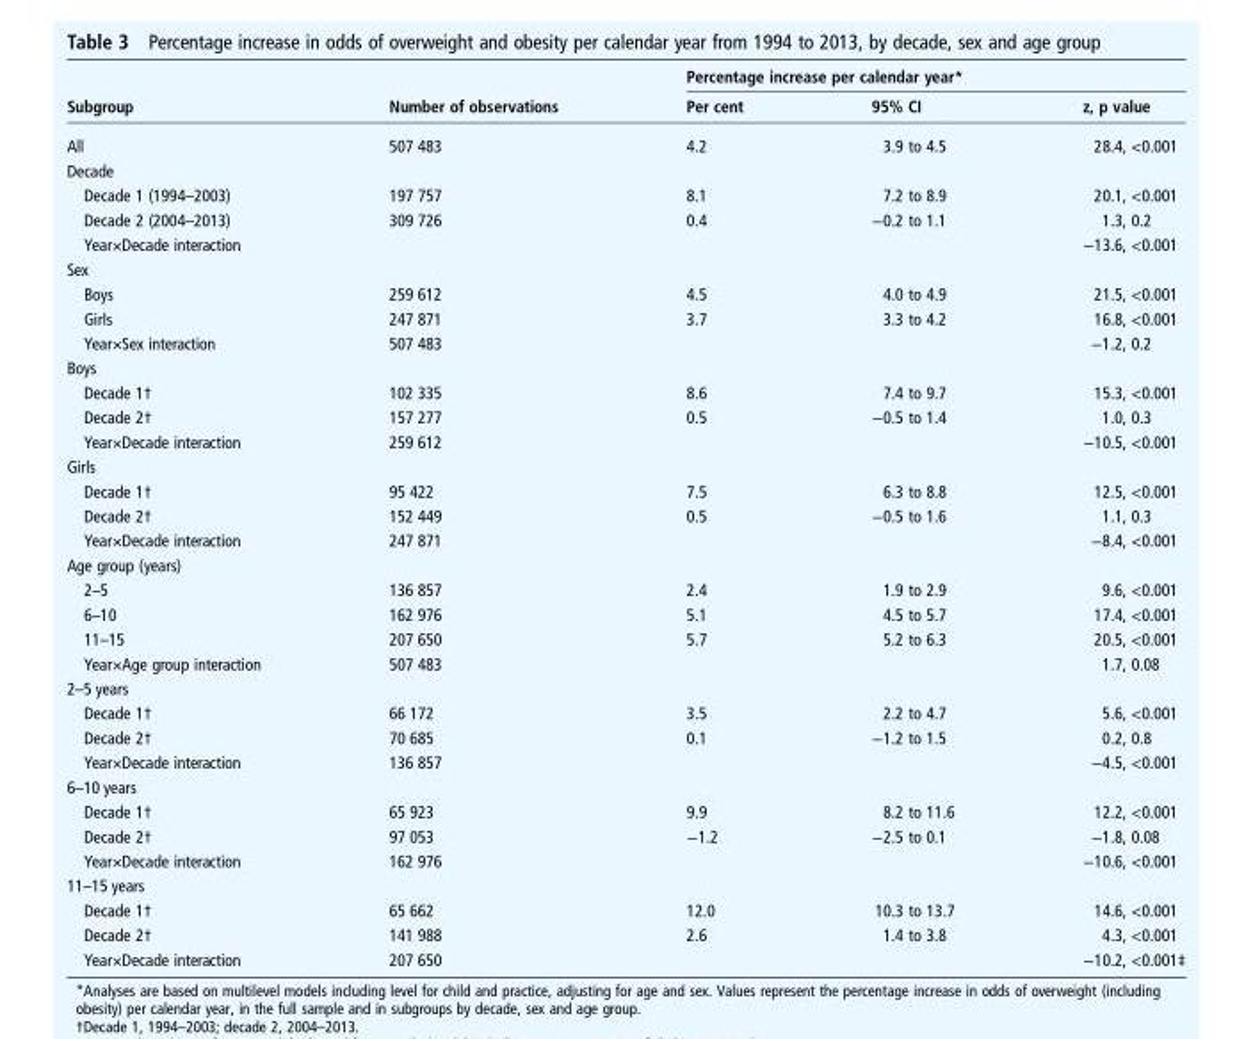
<table><thead><tr><td rowspan="2">Subgroup</td><td rowspan="2">Number of observations</td><td colspan="3">Percentage increase per calendar year*</td></tr><tr><td>Per cent</td><td>95% CI</td><td>z, p value</td></tr></thead><tbody><tr><td>All</td><td>507 483</td><td>4.2</td><td>3.9 to 4.5</td><td>28.4, &lt;0.001</td></tr><tr><td colspan="5">Decade</td></tr><tr><td>Decade 1 (1994–2003)</td><td>197 757</td><td>8.1</td><td>7.2 to 8.9</td><td>20.1, &lt;0.001</td></tr><tr><td>Decade 2 (2004–2013)</td><td>309 726</td><td>0.4</td><td>−0.2 to 1.1</td><td>1.3, 0.2</td></tr><tr><td>Year×Decade interaction</td><td></td><td></td><td></td><td>−13.6, &lt;0.001</td></tr><tr><td colspan="5">Sex</td></tr><tr><td>Boys</td><td>259 612</td><td>4.5</td><td>4.0 to 4.9</td><td>21.5, &lt;0.001</td></tr><tr><td>Girls</td><td>247 871</td><td>3.7</td><td>3.3 to 4.2</td><td>16.8, &lt;0.001</td></tr><tr><td>Year×Sex interaction</td><td>507 483</td><td></td><td></td><td>−1.2, 0.2</td></tr><tr><td colspan="5">Boys</td></tr><tr><td>Decade 1†</td><td>102 335</td><td>8.6</td><td>7.4 to 9.7</td><td>15.3, &lt;0.001</td></tr><tr><td>Decade 2†</td><td>157 277</td><td>0.5</td><td>−0.5 to 1.4</td><td>1.0, 0.3</td></tr><tr><td>Year×Decade interaction</td><td>259 612</td><td></td><td></td><td>−10.5, &lt;0.001</td></tr><tr><td colspan="5">Girls</td></tr><tr><td>Decade 1†</td><td>95 422</td><td>7.5</td><td>6.3 to 8.8</td><td>12.5, &lt;0.001</td></tr><tr><td>Decade 2†</td><td>152 449</td><td>0.5</td><td>−0.5 to 1.6</td><td>1.1, 0.3</td></tr><tr><td>Year×Decade interaction</td><td>247 871</td><td></td><td></td><td>−8.4, &lt;0.001</td></tr><tr><td colspan="5">Age group (years)</td></tr><tr><td>2–5</td><td>136 857</td><td>2.4</td><td>1.9 to 2.9</td><td>9.6, &lt;0.001</td></tr><tr><td>6–10</td><td>162 976</td><td>5.1</td><td>4.5 to 5.7</td><td>17.4, &lt;0.001</td></tr><tr><td>11–15</td><td>207 650</td><td>5.7</td><td>5.2 to 6.3</td><td>20.5, &lt;0.001</td></tr><tr><td>Year×Age group interaction</td><td>507 483</td><td></td><td></td><td>1.7, 0.08</td></tr><tr><td colspan="5">2–5 years</td></tr><tr><td>Decade 1†</td><td>66 172</td><td>3.5</td><td>2.2 to 4.7</td><td>5.6, &lt;0.001</td></tr><tr><td>Decade 2†</td><td>70 685</td><td>0.1</td><td>−1.2 to 1.5</td><td>0.2, 0.8</td></tr><tr><td>Year×Decade interaction</td><td>136 857</td><td></td><td></td><td>−4.5, &lt;0.001</td></tr><tr><td colspan="5">6–10 years</td></tr><tr><td>Decade 1†</td><td>65 923</td><td>9.9</td><td>8.2 to 11.6</td><td>12.2, &lt;0.001</td></tr><tr><td>Decade 2†</td><td>97 053</td><td>−1.2</td><td>−2.5 to 0.1</td><td>−1.8, 0.08</td></tr><tr><td>Year×Decade interaction</td><td>162 976</td><td></td><td></td><td>−10.6, &lt;0.001</td></tr><tr><td colspan="5">11–15 years</td></tr><tr><td>Decade 1†</td><td>65 662</td><td>12.0</td><td>10.3 to 13.7</td><td>14.6, &lt;0.001</td></tr><tr><td>Decade 2†</td><td>141 988</td><td>2.6</td><td>1.4 to 3.8</td><td>4.3, &lt;0.001</td></tr><tr><td>Year×Decade interaction</td><td>207 650</td><td></td><td></td><td>−10.2, &lt;0.001‡</td></tr></tbody></table>